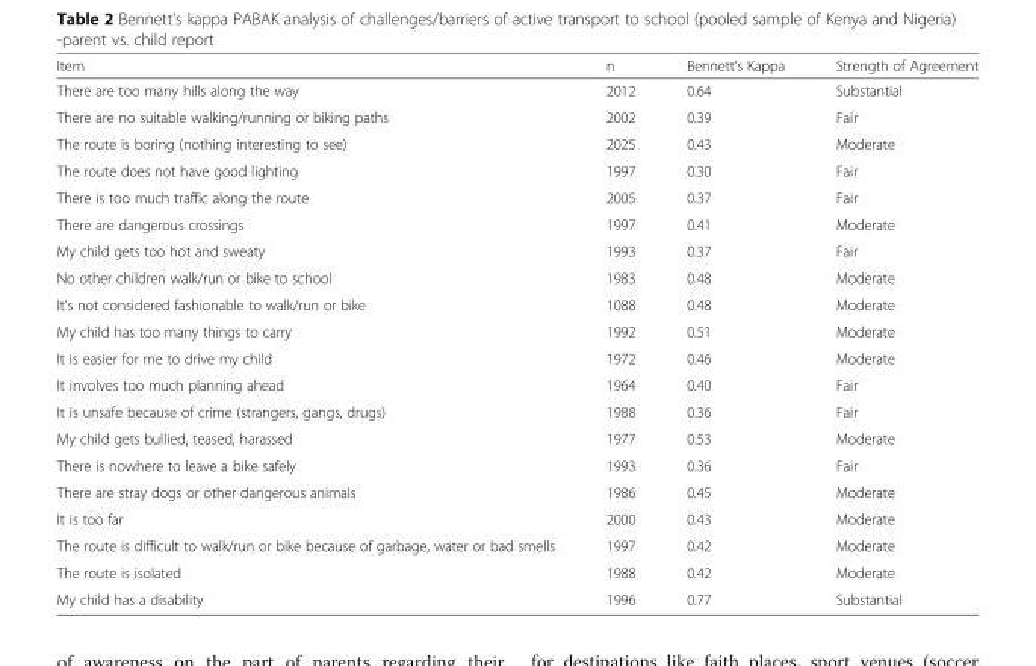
<table><thead><tr><td>Item</td><td>n</td><td>Bennett’s Kappa</td><td>Strength of Agreement</td></tr></thead><tbody><tr><td>There are too many hills along the way</td><td>2012</td><td>0.64</td><td>Substantial</td></tr><tr><td>There are no suitable walking/running or biking paths</td><td>2002</td><td>0.39</td><td>Fair</td></tr><tr><td>The route is boring (nothing interesting to see)</td><td>2025</td><td>0.43</td><td>Moderate</td></tr><tr><td>The route does not have good lighting</td><td>1997</td><td>0.30</td><td>Fair</td></tr><tr><td>There is too much traffic along the route</td><td>2005</td><td>0.37</td><td>Fair</td></tr><tr><td>There are dangerous crossings</td><td>1997</td><td>0.41</td><td>Moderate</td></tr><tr><td>My child gets too hot and sweaty</td><td>1993</td><td>0.37</td><td>Fair</td></tr><tr><td>No other children walk/run or bike to school</td><td>1983</td><td>0.48</td><td>Moderate</td></tr><tr><td>It’s not considered fashionable to walk/run or bike</td><td>1088</td><td>0.48</td><td>Moderate</td></tr><tr><td>My child has too many things to carry</td><td>1992</td><td>0.51</td><td>Moderate</td></tr><tr><td>It is easier for me to drive my child</td><td>1972</td><td>0.46</td><td>Moderate</td></tr><tr><td>It involves too much planning ahead</td><td>1964</td><td>0.40</td><td>Fair</td></tr><tr><td>It is unsafe because of crime (strangers, gangs, drugs)</td><td>1988</td><td>0.36</td><td>Fair</td></tr><tr><td>My child gets bullied, teased, harassed</td><td>1977</td><td>0.53</td><td>Moderate</td></tr><tr><td>There is nowhere to leave a bike safely</td><td>1993</td><td>0.36</td><td>Fair</td></tr><tr><td>There are stray dogs or other dangerous animals</td><td>1986</td><td>0.45</td><td>Moderate</td></tr><tr><td>It is too far</td><td>2000</td><td>0.43</td><td>Moderate</td></tr><tr><td>The route is difficult to walk/run or bike because of garbage, water or bad smells</td><td>1997</td><td>0.42</td><td>Moderate</td></tr><tr><td>The route is isolated</td><td>1988</td><td>0.42</td><td>Moderate</td></tr><tr><td>My child has a disability</td><td>1996</td><td>0.77</td><td>Substantial</td></tr></tbody></table>